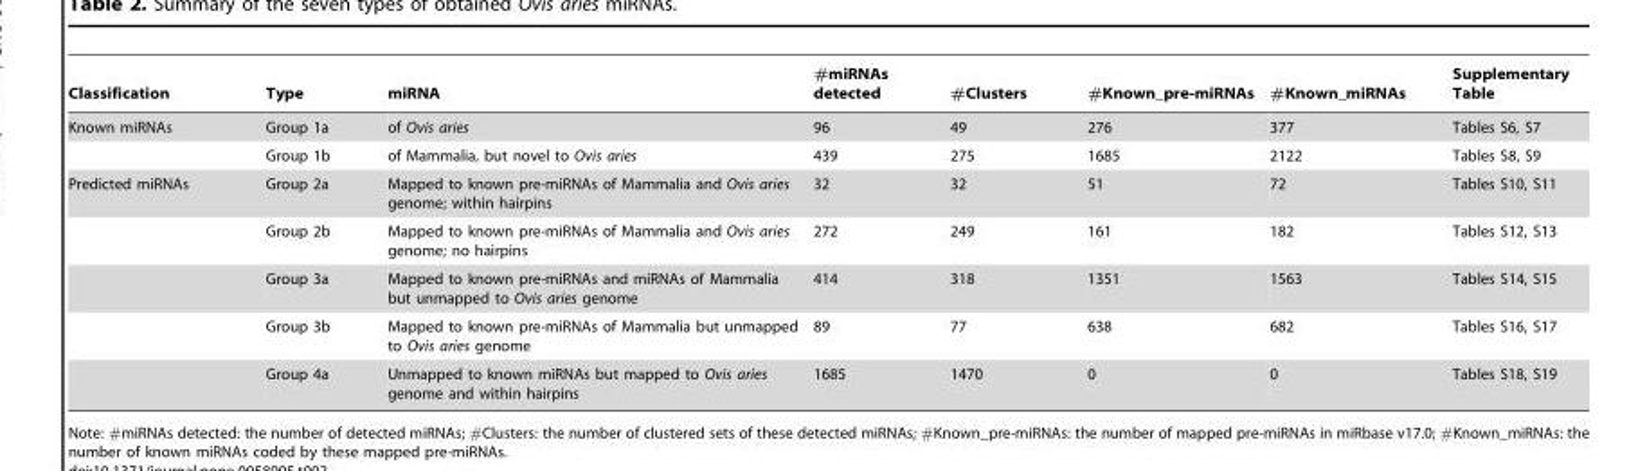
<table><thead><tr><td>Classification</td><td>Type</td><td>miRNA</td><td>#miRNAs detected</td><td>#Clusters</td><td>#Known_pre-miRNAs</td><td>#Known_miRNAs</td><td>Supplementary Table</td></tr></thead><tbody><tr><td rowspan="2">Known miRNAs</td><td>Group 1a</td><td>of Ovis aries</td><td>96</td><td>49</td><td>276</td><td>377</td><td>Tables S6, S7</td></tr><tr><td>Group 1b</td><td>of Mammalia, but novel to Ovis aries</td><td>439</td><td>275</td><td>1685</td><td>2122</td><td>Tables S8, S9</td></tr><tr><td rowspan="5">Predicted miRNAs</td><td>Group 2a</td><td>Mapped to known pre-miRNAs of Mammalia and Ovis aries genome; within hairpins</td><td>32</td><td>32</td><td>51</td><td>72</td><td>Tables S10, S11</td></tr><tr><td>Group 2b</td><td>Mapped to known pre-miRNAs of Mammalia and Ovis aries genome; no hairpins</td><td>272</td><td>249</td><td>161</td><td>182</td><td>Tables S12, S13</td></tr><tr><td>Group 3a</td><td>Mapped to known pre-miRNAs and miRNAs of Mammalia but unmapped to Ovis aries genome</td><td>414</td><td>318</td><td>1351</td><td>1563</td><td>Tables S14, S15</td></tr><tr><td>Group 3b</td><td>Mapped to known pre-miRNAs of Mammalia but unmapped to Ovis aries genome</td><td>89</td><td>77</td><td>638</td><td>682</td><td>Tables S16, S17</td></tr><tr><td>Group 4a</td><td>Unmapped to known miRNAs but mapped to Ovis aries genome and within hairpins</td><td>1685</td><td>1470</td><td>0</td><td>0</td><td>Tables S18, S19</td></tr></tbody></table>